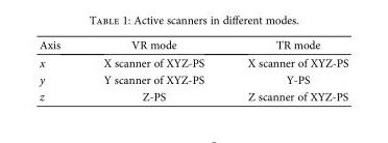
<table><thead><tr><td>Axis</td><td>VR mode</td><td>TR mode</td></tr></thead><tbody><tr><td>x</td><td>X scanner of XYZ-PS</td><td>X scanner of XYZ-PS</td></tr><tr><td>y</td><td>Y scanner of XYZ-PS</td><td>Y-PS</td></tr><tr><td>z</td><td>Z-PS</td><td>Z scanner of XYZ-PS</td></tr></tbody></table>